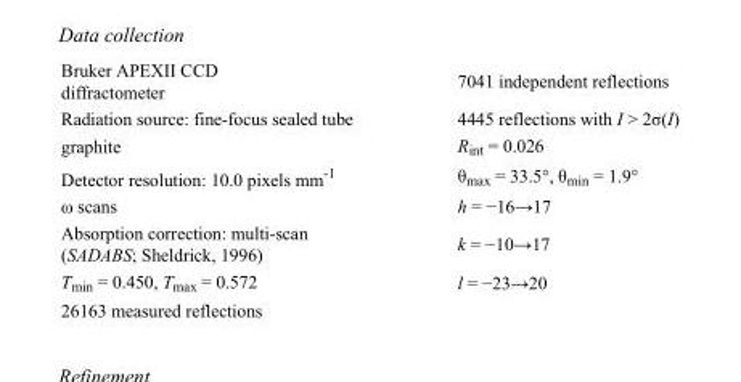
<table><tbody><tr><td>Bruker APEXII CCD diffractometer</td><td>7041 independent reflections</td></tr><tr><td>Radiation source: fine-focus sealed tube</td><td>4445 reflections with I &gt; 2σ(I)</td></tr><tr><td>graphite</td><td>R<sub>int</sub> = 0.026</td></tr><tr><td>Detector resolution: 10.0 pixels mm<sup>-1</sup></td><td>θ<sub>max</sub> = 33.5°, θ<sub>min</sub> = 1.9°</td></tr><tr><td>ω scans</td><td>h = −16→17</td></tr><tr><td>Absorption correction: multi-scan (SADABS; Sheldrick, 1996)</td><td>k = −10→17</td></tr><tr><td>T<sub>min</sub> = 0.450, T<sub>max</sub> = 0.572</td><td>l = −23→20</td></tr><tr><td>26163 measured reflections</td><td></td></tr></tbody></table>